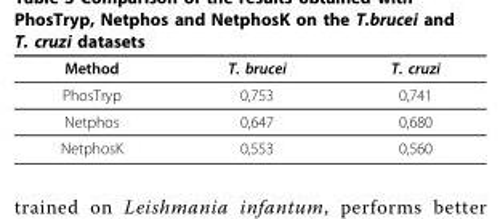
<table><thead><tr><td>Method</td><td>T. brucei</td><td>T. cruzi</td></tr></thead><tbody><tr><td>PhosTryp</td><td>0,753</td><td>0,741</td></tr><tr><td>Netphos</td><td>0,647</td><td>0,680</td></tr><tr><td>NetphosK</td><td>0,553</td><td>0,560</td></tr></tbody></table>